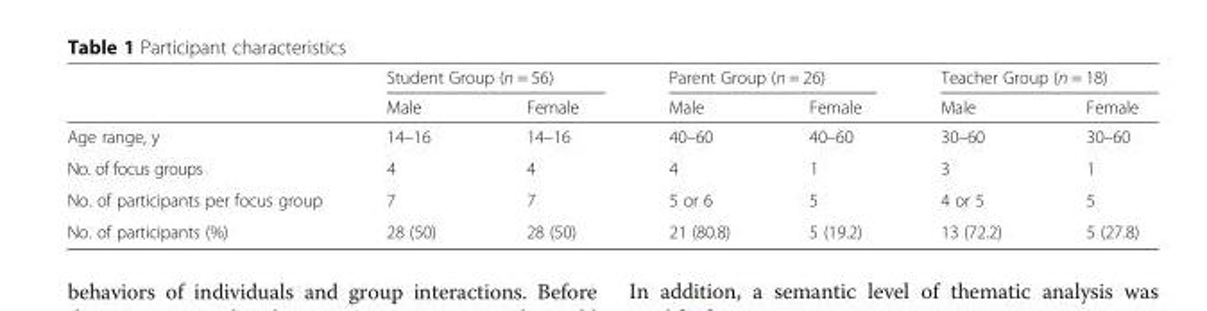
<table><thead><tr><td rowspan="2"></td><td colspan="2">Student Group (n = 56)</td><td colspan="2">Parent Group (n = 26)</td><td colspan="2">Teacher Group (n = 18)</td></tr><tr><td>Male</td><td>Female</td><td>Male</td><td>Female</td><td>Male</td><td>Female</td></tr></thead><tbody><tr><td>Age range, y</td><td>14–16</td><td>14–16</td><td>40–60</td><td>40–60</td><td>30–60</td><td>30–60</td></tr><tr><td>No. of focus groups</td><td>4</td><td>4</td><td>4</td><td>1</td><td>3</td><td>1</td></tr><tr><td>No. of participants per focus group</td><td>7</td><td>7</td><td>5 or 6</td><td>5</td><td>4 or 5</td><td>5</td></tr><tr><td>No. of participants (%)</td><td>28 (50)</td><td>28 (50)</td><td>21 (80.8)</td><td>5 (19.2)</td><td>13 (72.2)</td><td>5 (27.8)</td></tr></tbody></table>